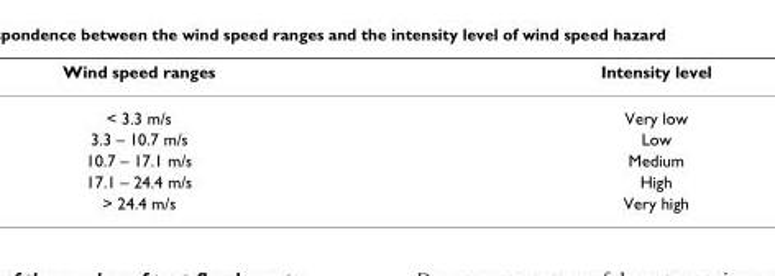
<table><thead><tr><td>Wind speed ranges</td><td>Intensity level</td></tr></thead><tbody><tr><td>&lt; 3.3 m/s</td><td>Very low</td></tr><tr><td>3.3 – 10.7 m/s</td><td>Low</td></tr><tr><td>10.7 – 17.1 m/s</td><td>Medium</td></tr><tr><td>17.1 – 24.4 m/s</td><td>High</td></tr><tr><td>&gt; 24.4 m/s</td><td>Very high</td></tr></tbody></table>